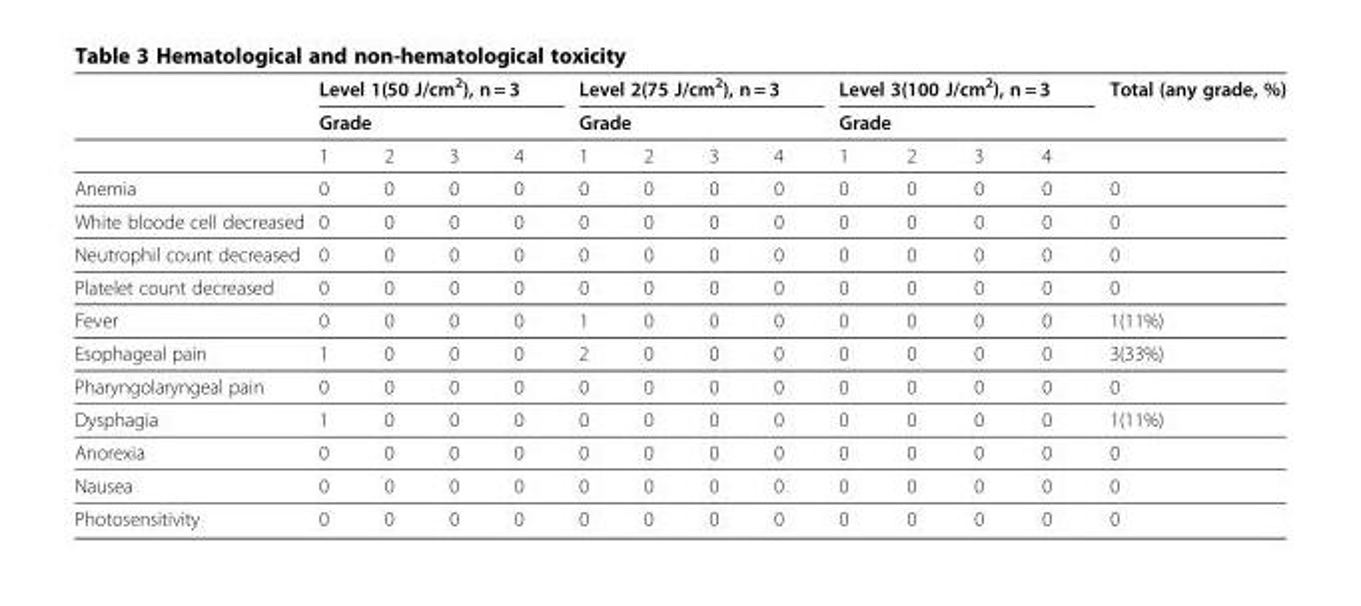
<table><thead><tr><td rowspan="3"></td><td rowspan="2" colspan="4">Level 1(50 J/cm<sup>2</sup>), n = 3 Grade</td><td rowspan="2" colspan="4">Level 2(75 J/cm<sup>2</sup>), n = 3 Grade</td><td rowspan="2" colspan="4">Level 3(100 J/cm<sup>2</sup>), n = 3 Grade</td><td rowspan="3">Total (any grade, %)</td></tr><tr></tr><tr><td>1</td><td>2</td><td>3</td><td>4</td><td>1</td><td>2</td><td>3</td><td>4</td><td>1</td><td>2</td><td>3</td><td>4</td></tr></thead><tbody><tr><td>Anemia</td><td>0</td><td>0</td><td>0</td><td>0</td><td>0</td><td>0</td><td>0</td><td>0</td><td>0</td><td>0</td><td>0</td><td>0</td><td>0</td></tr><tr><td>White bloode cell decreased</td><td>0</td><td>0</td><td>0</td><td>0</td><td>0</td><td>0</td><td>0</td><td>0</td><td>0</td><td>0</td><td>0</td><td>0</td><td>0</td></tr><tr><td>Neutrophil count decreased</td><td>0</td><td>0</td><td>0</td><td>0</td><td>0</td><td>0</td><td>0</td><td>0</td><td>0</td><td>0</td><td>0</td><td>0</td><td>0</td></tr><tr><td>Platelet count decreased</td><td>0</td><td>0</td><td>0</td><td>0</td><td>0</td><td>0</td><td>0</td><td>0</td><td>0</td><td>0</td><td>0</td><td>0</td><td>0</td></tr><tr><td>Fever</td><td>0</td><td>0</td><td>0</td><td>0</td><td>1</td><td>0</td><td>0</td><td>0</td><td>0</td><td>0</td><td>0</td><td>0</td><td>1(11%)</td></tr><tr><td>Esophageal pain</td><td>1</td><td>0</td><td>0</td><td>0</td><td>2</td><td>0</td><td>0</td><td>0</td><td>0</td><td>0</td><td>0</td><td>0</td><td>3(33%)</td></tr><tr><td>Pharyngolaryngeal pain</td><td>0</td><td>0</td><td>0</td><td>0</td><td>0</td><td>0</td><td>0</td><td>0</td><td>0</td><td>0</td><td>0</td><td>0</td><td>0</td></tr><tr><td>Dysphagia</td><td>1</td><td>0</td><td>0</td><td>0</td><td>0</td><td>0</td><td>0</td><td>0</td><td>0</td><td>0</td><td>0</td><td>0</td><td>1(11%)</td></tr><tr><td>Anorexia</td><td>0</td><td>0</td><td>0</td><td>0</td><td>0</td><td>0</td><td>0</td><td>0</td><td>0</td><td>0</td><td>0</td><td>0</td><td>0</td></tr><tr><td>Nausea</td><td>0</td><td>0</td><td>0</td><td>0</td><td>0</td><td>0</td><td>0</td><td>0</td><td>0</td><td>0</td><td>0</td><td>0</td><td>0</td></tr><tr><td>Photosensitivity</td><td>0</td><td>0</td><td>0</td><td>0</td><td>0</td><td>0</td><td>0</td><td>0</td><td>0</td><td>0</td><td>0</td><td>0</td><td>0</td></tr></tbody></table>